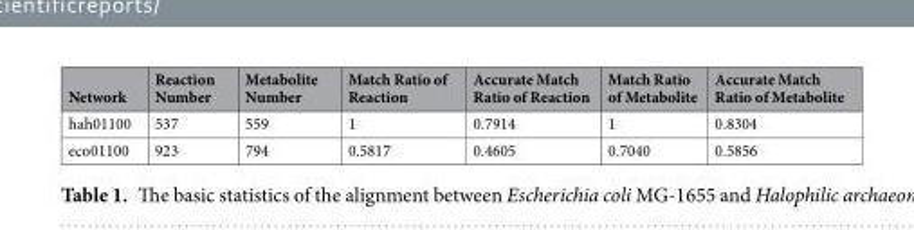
<table><thead><tr><td>Network</td><td>Reaction Number</td><td>Metabolite Number</td><td>Match Ratio of Reaction</td><td>Accurate Match Ratio of Reaction</td><td>Match Ratio of Metabolite</td><td>Accurate Match Ratio of Metabolite</td></tr></thead><tbody><tr><td>hah01100</td><td>537</td><td>559</td><td>1</td><td>0.7914</td><td>1</td><td>0.8304</td></tr><tr><td>eco01100</td><td>923</td><td>794</td><td>0.5817</td><td>0.4605</td><td>0.7040</td><td>0.5856</td></tr></tbody></table>